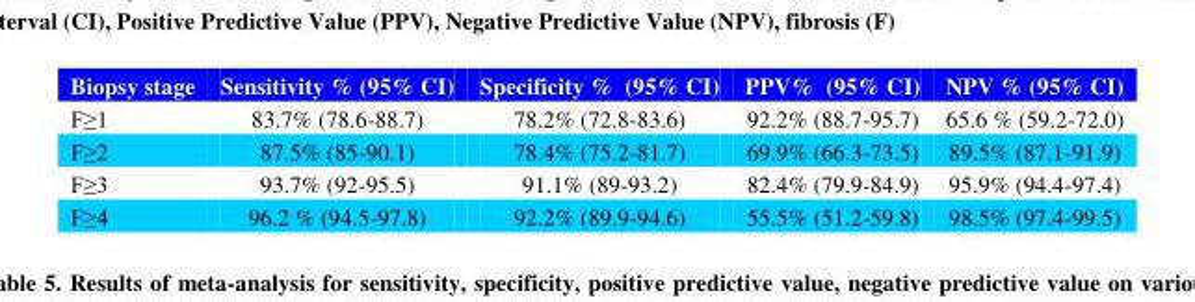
<table><thead><tr><td>Biopsy stage</td><td>Sensitivity % (95% CI)</td><td>Specificity % (95% CI)</td><td>PPV% (95% CI)</td><td>NPV % (95% CI)</td></tr></thead><tbody><tr><td>F≥1</td><td>83.7% (78.6-88.7)</td><td>78.2% (72.8-83.6)</td><td>92.2% (88.7-95.7)</td><td>65.6 % (59.2-72.0)</td></tr><tr><td>F≥2</td><td>87.5% (85-90.1)</td><td>78.4% (75.2-81.7)</td><td>69.9% (66.3-73.5)</td><td>89.5% (87.1-91.9)</td></tr><tr><td>F≥3</td><td>93.7% (92-95.5)</td><td>91.1% (89-93.2)</td><td>82.4% (79.9-84.9)</td><td>95.9% (94.4-97.4)</td></tr><tr><td>F≥4</td><td>96.2 % (94.5-97.8)</td><td>92.2% (89.9-94.6)</td><td>55.5% (51.2-59.8)</td><td>98.5% (97.4-99.5)</td></tr></tbody></table>